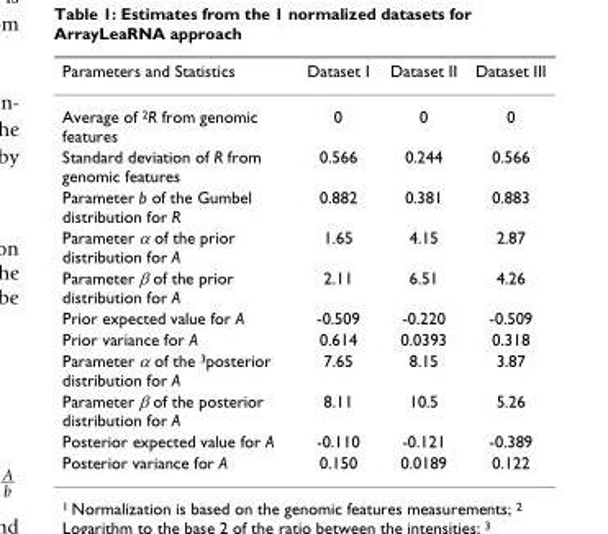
<table><thead><tr><td>Parameters and Statistics</td><td>Dataset I</td><td>Dataset II</td><td>Dataset III</td></tr></thead><tbody><tr><td>Average of <sup>2</sup>R from genomic features</td><td>0</td><td>0</td><td>0</td></tr><tr><td>Standard deviation of R from genomic features</td><td>0.566</td><td>0.244</td><td>0.566</td></tr><tr><td>Parameter b of the Gumbel distribution for R</td><td>0.882</td><td>0.381</td><td>0.883</td></tr><tr><td>Parameter α of the prior distribution for A</td><td>1.65</td><td>4.15</td><td>2.87</td></tr><tr><td>Parameter β of the prior distribution for A</td><td>2.11</td><td>6.51</td><td>4.26</td></tr><tr><td>Prior expected value for A</td><td>-0.509</td><td>-0.220</td><td>-0.509</td></tr><tr><td>Prior variance for A</td><td>0.614</td><td>0.0393</td><td>0.318</td></tr><tr><td>Parameter α of the <sup>3</sup>posterior distribution for A</td><td>7.65</td><td>8.15</td><td>3.87</td></tr><tr><td>Parameter β of the posterior distribution for A</td><td>8.11</td><td>10.5</td><td>5.26</td></tr><tr><td>Posterior expected value for A</td><td>-0.110</td><td>-0.121</td><td>-0.389</td></tr><tr><td>Posterior variance for A</td><td>0.150</td><td>0.0189</td><td>0.122</td></tr></tbody></table>